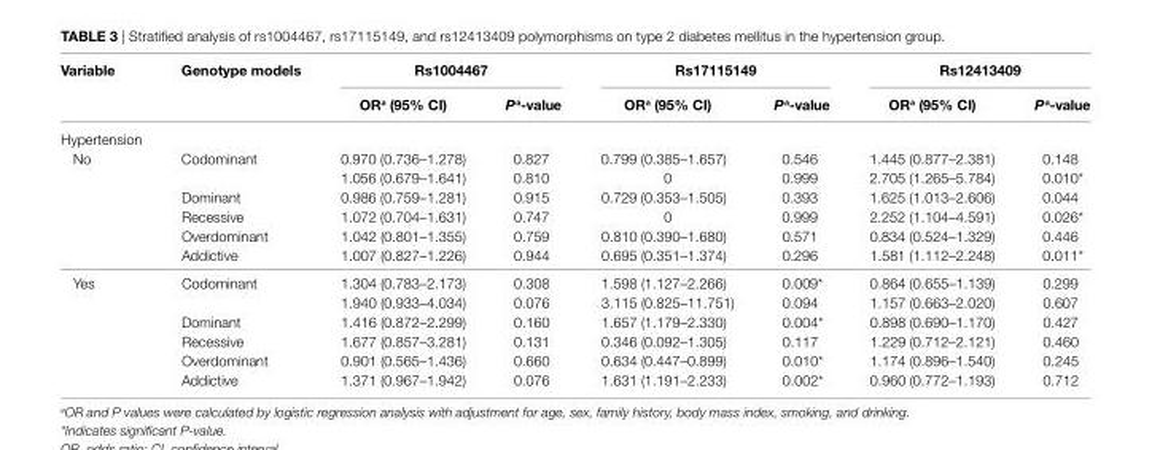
<table><thead><tr><td rowspan="2">Variable</td><td rowspan="2">genotype models</td><td colspan="2">rs1004467</td><td colspan="2">rs17115149</td><td colspan="2">rs12413409</td></tr><tr><td>Or<sup>a</sup> (95% ci)</td><td>P<sup>a</sup>-value</td><td>Or<sup>a</sup> (95% ci)</td><td>P<sup>a</sup>-value</td><td>Or<sup>a</sup> (95% ci)</td><td>P<sup>a</sup>-value</td></tr></thead><tbody><tr><td colspan="8">Hypertension</td></tr><tr><td rowspan="6">No</td><td>Codominant</td><td>0.970 (0.736–1.278)</td><td>0.827</td><td>0.799 (0.385–1.657)</td><td>0.546</td><td>1.445 (0.877–2.381)</td><td>0.148</td></tr><tr><td></td><td>1.056 (0.679–1.641)</td><td>0.810</td><td>0</td><td>0.999</td><td>2.705 (1.265–5.784)</td><td>0.010*</td></tr><tr><td>Dominant</td><td>0.986 (0.759–1.281)</td><td>0.915</td><td>0.729 (0.353–1.505)</td><td>0.393</td><td>1.625 (1.013–2.606)</td><td>0.044</td></tr><tr><td>Recessive</td><td>1.072 (0.704–1.631)</td><td>0.747</td><td>0</td><td>0.999</td><td>2.252 (1.104–4.591)</td><td>0.026*</td></tr><tr><td>Overdominant</td><td>1.042 (0.801–1.355)</td><td>0.759</td><td>0.810 (0.390–1.680)</td><td>0.571</td><td>0.834 (0.524–1.329)</td><td>0.446</td></tr><tr><td>Addictive</td><td>1.007 (0.827–1.226)</td><td>0.944</td><td>0.695 (0.351–1.374)</td><td>0.296</td><td>1.581 (1.112–2.248)</td><td>0.011*</td></tr><tr><td rowspan="6">Yes</td><td>Codominant</td><td>1.304 (0.783–2.173)</td><td>0.308</td><td>1.598 (1.127–2.266)</td><td>0.009*</td><td>0.864 (0.655–1.139)</td><td>0.299</td></tr><tr><td></td><td>1.940 (0.933–4.034)</td><td>0.076</td><td>3.115 (0.825–11.751)</td><td>0.094</td><td>1.157 (0.663–2.020)</td><td>0.607</td></tr><tr><td>Dominant</td><td>1.416 (0.872–2.299)</td><td>0.160</td><td>1.657 (1.179–2.330)</td><td>0.004*</td><td>0.898 (0.690–1.170)</td><td>0.427</td></tr><tr><td>Recessive</td><td>1.677 (0.857–3.281)</td><td>0.131</td><td>0.346 (0.092–1.305)</td><td>0.117</td><td>1.229 (0.712–2.121)</td><td>0.460</td></tr><tr><td>Overdominant</td><td>0.901 (0.565–1.436)</td><td>0.660</td><td>0.634 (0.447–0.899)</td><td>0.010*</td><td>1.174 (0.896–1.540)</td><td>0.245</td></tr><tr><td>Addictive</td><td>1.371 (0.967–1.942)</td><td>0.076</td><td>1.631 (1.191–2.233)</td><td>0.002*</td><td>0.960 (0.772–1.193)</td><td>0.712</td></tr></tbody></table>